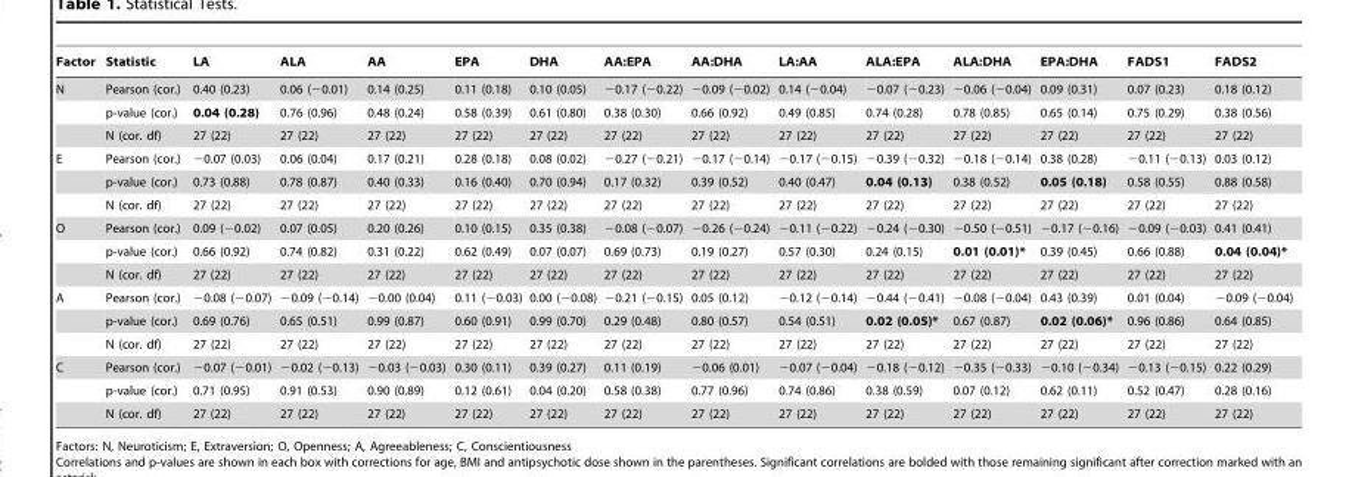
<table><thead><tr><td>Factor</td><td>Statistic</td><td>LA</td><td>ALA</td><td>AA</td><td>EPA</td><td>DHA</td><td>AA:EPA</td><td>AA:DHA</td><td>LA:AA</td><td>ALA:EPA</td><td>ALA:DHA</td><td>EPA:DHA</td><td>FADS1</td><td>FADS2</td></tr></thead><tbody><tr><td rowspan="3">N</td><td>Pearson (cor.)</td><td>0.40 (0.23)</td><td>0.06 (−0.01)</td><td>0.14 (0.25)</td><td>0.11 (0.18)</td><td>0.10 (0.05)</td><td>−0.17 (−0.22)</td><td>−0.09 (−0.02)</td><td>0.14 (−0.04)</td><td>−0.07 (−0.23)</td><td>−0.06 (−0.04)</td><td>0.09 (0.31)</td><td>0.07 (0.23)</td><td>0.18 (0.12)</td></tr><tr><td>p-value (cor.)</td><td>0.04 (0.28)</td><td>0.76 (0.96)</td><td>0.48 (0.24)</td><td>0.58 (0.39)</td><td>0.61 (0.80)</td><td>0.38 (0.30)</td><td>0.66 (0.92)</td><td>0.49 (0.85)</td><td>0.74 (0.28)</td><td>0.78 (0.85)</td><td>0.65 (0.14)</td><td>0.75 (0.29)</td><td>0.38 (0.56)</td></tr><tr><td>N (cor. df)</td><td>27 (22)</td><td>27 (22)</td><td>27 (22)</td><td>27 (22)</td><td>27 (22)</td><td>27 (22)</td><td>27 (22)</td><td>27 (22)</td><td>27 (22)</td><td>27 (22)</td><td>27 (22)</td><td>27 (22)</td><td>27 (22)</td></tr><tr><td rowspan="3">E</td><td>Pearson (cor.)</td><td>−0.07 (0.03)</td><td>0.06 (0.04)</td><td>0.17 (0.21)</td><td>0.28 (0.18)</td><td>0.08 (0.02)</td><td>−0.27 (−0.21)</td><td>−0.17 (−0.14)</td><td>−0.17 (−0.15)</td><td>−0.39 (−0.32)</td><td>−0.18 (−0.14)</td><td>0.38 (0.28)</td><td>−0.11 (−0.13)</td><td>0.03 (0.12)</td></tr><tr><td>p-value (cor.)</td><td>0.73 (0.88)</td><td>0.78 (0.87)</td><td>0.40 (0.33)</td><td>0.16 (0.40)</td><td>0.70 (0.94)</td><td>0.17 (0.32)</td><td>0.39 (0.52)</td><td>0.40 (0.47)</td><td>0.04 (0.13)</td><td>0.38 (0.52)</td><td>0.05 (0.18)</td><td>0.58 (0.55)</td><td>0.88 (0.58)</td></tr><tr><td>N (cor. df)</td><td>27 (22)</td><td>27 (22)</td><td>27 (22)</td><td>27 (22)</td><td>27 (22)</td><td>27 (22)</td><td>27 (22)</td><td>27 (22)</td><td>27 (22)</td><td>27 (22)</td><td>27 (22)</td><td>27 (22)</td><td>27 (22)</td></tr><tr><td rowspan="3">O</td><td>Pearson (cor.)</td><td>0.09 (−0.02)</td><td>0.07 (0.05)</td><td>0.20 (0.26)</td><td>0.10 (0.15)</td><td>0.35 (0.38)</td><td>−0.08 (−0.07)</td><td>−0.26 (−0.24)</td><td>−0.11 (−0.22)</td><td>−0.24 (−0.30)</td><td>−0.50 (−0.51)</td><td>−0.17 (−0.16)</td><td>−0.09 (−0.03)</td><td>0.41 (0.41)</td></tr><tr><td>p-value (cor.)</td><td>0.66 (0.92)</td><td>0.74 (0.82)</td><td>0.31 (0.22)</td><td>0.62 (0.49)</td><td>0.07 (0.07)</td><td>0.69 (0.73)</td><td>0.19 (0.27)</td><td>0.57 (0.30)</td><td>0.24 (0.15)</td><td>0.01 (0.01)*</td><td>0.39 (0.45)</td><td>0.66 (0.88)</td><td>0.04 (0.04)*</td></tr><tr><td>N (cor. df)</td><td>27 (22)</td><td>27 (22)</td><td>27 (22)</td><td>27 (22)</td><td>27 (22)</td><td>27 (22)</td><td>27 (22)</td><td>27 (22)</td><td>27 (22)</td><td>27 (22)</td><td>27 (22)</td><td>27 (22)</td><td>27 (22)</td></tr><tr><td rowspan="3">A</td><td>Pearson (cor.)</td><td>−0.08 (−0.07)</td><td>−0.09 (−0.14)</td><td>−0.00 (0.04)</td><td>0.11 (−0.03)</td><td>0.00 (−0.08)</td><td>−0.21 (−0.15)</td><td>0.05 (0.12)</td><td>−0.12 (−0.14)</td><td>−0.44 (−0.41)</td><td>−0.08 (−0.04)</td><td>0.43 (0.39)</td><td>0.01 (0.04)</td><td>−0.09 (−0.04)</td></tr><tr><td>p-value (cor.)</td><td>0.69 (0.76)</td><td>0.65 (0.51)</td><td>0.99 (0.87)</td><td>0.60 (0.91)</td><td>0.99 (0.70)</td><td>0.29 (0.48)</td><td>0.80 (0.57)</td><td>0.54 (0.51)</td><td>0.02 (0.05)*</td><td>0.67 (0.87)</td><td>0.02 (0.06)*</td><td>0.96 (0.86)</td><td>0.64 (0.85)</td></tr><tr><td>N (cor. df)</td><td>27 (22)</td><td>27 (22)</td><td>27 (22)</td><td>27 (22)</td><td>27 (22)</td><td>27 (22)</td><td>27 (22)</td><td>27 (22)</td><td>27 (22)</td><td>27 (22)</td><td>27 (22)</td><td>27 (22)</td><td>27 (22)</td></tr><tr><td rowspan="3">C</td><td>Pearson (cor.)</td><td>−0.07 (−0.01)</td><td>−0.02 (−0.13)</td><td>−0.03 (−0.03)</td><td>0.30 (0.11)</td><td>0.39 (0.27)</td><td>0.11 (0.19)</td><td>−0.06 (0.01)</td><td>−0.07 (−0.04)</td><td>−0.18 (−0.12)</td><td>−0.35 (−0.33)</td><td>−0.10 (−0.34)</td><td>−0.13 (−0.15)</td><td>0.22 (0.29)</td></tr><tr><td>p-value (cor.)</td><td>0.71 (0.95)</td><td>0.91 (0.53)</td><td>0.90 (0.89)</td><td>0.12 (0.61)</td><td>0.04 (0.20)</td><td>0.58 (0.38)</td><td>0.77 (0.96)</td><td>0.74 (0.86)</td><td>0.38 (0.59)</td><td>0.07 (0.12)</td><td>0.62 (0.11)</td><td>0.52 (0.47)</td><td>0.28 (0.16)</td></tr><tr><td>N (cor. df)</td><td>27 (22)</td><td>27 (22)</td><td>27 (22)</td><td>27 (22)</td><td>27 (22)</td><td>27 (22)</td><td>27 (22)</td><td>27 (22)</td><td>27 (22)</td><td>27 (22)</td><td>27 (22)</td><td>27 (22)</td><td>27 (22)</td></tr></tbody></table>